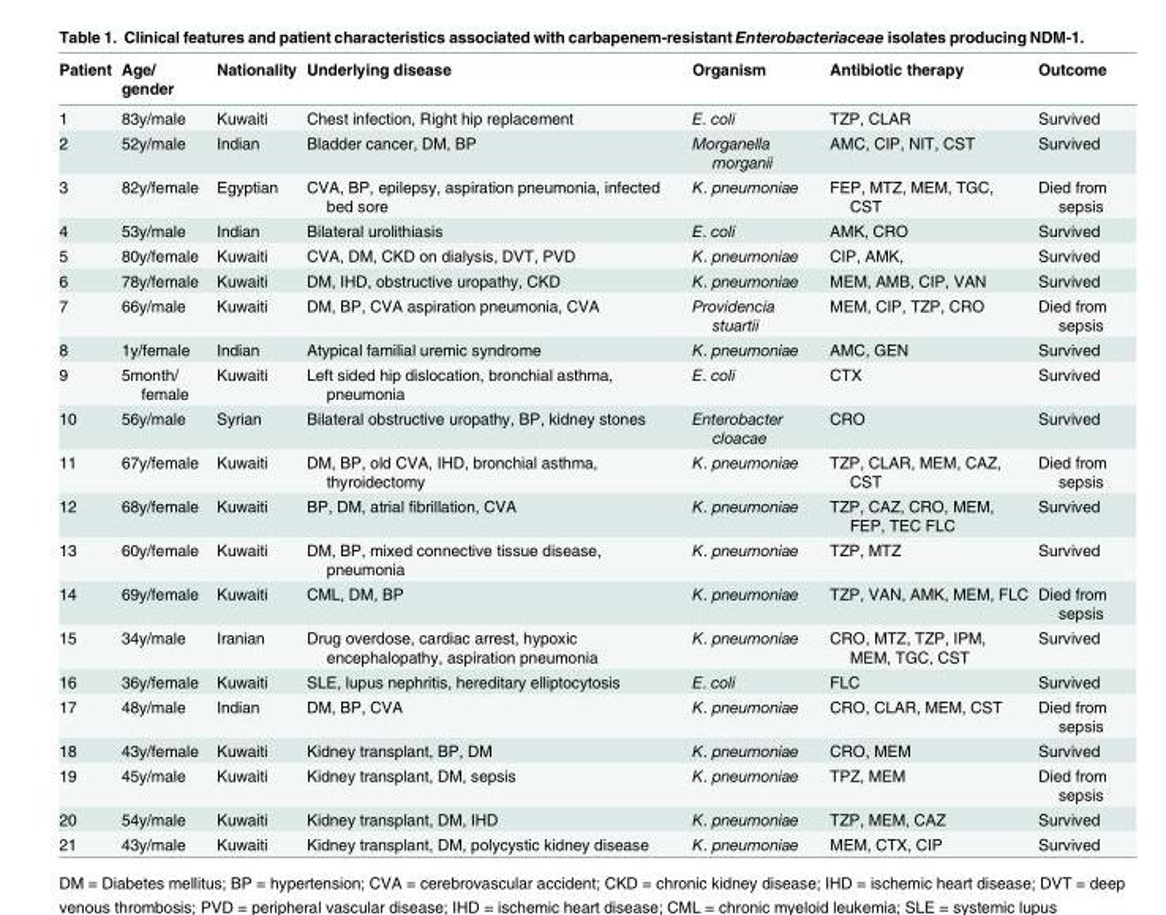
<table><thead><tr><td>Patient</td><td>Age/ gender</td><td>Nationality</td><td>Underlying disease</td><td>Organism</td><td>Antibiotic therapy</td><td>Outcome</td></tr></thead><tbody><tr><td>1</td><td>83y/male</td><td>Kuwaiti</td><td>Chest infection, Right hip replacement</td><td>E. coli</td><td>TZP, CLAR</td><td>Survived</td></tr><tr><td>2</td><td>52y/male</td><td>Indian</td><td>Bladder cancer, DM, BP</td><td>Morganella morganii</td><td>AMC, CIP, NIT, CST</td><td>Survived</td></tr><tr><td>3</td><td>82y/female</td><td>Egyptian</td><td>CVA, BP, epilepsy, aspiration pneumonia, infected bed sore</td><td>K. pneumoniae</td><td>FEP, MTZ, MEM, TGC, CST</td><td>Died from sepsis</td></tr><tr><td>4</td><td>53y/male</td><td>Indian</td><td>Bilateral urolithiasis</td><td>E. coli</td><td>AMK, CRO</td><td>Survived</td></tr><tr><td>5</td><td>80y/female</td><td>Kuwaiti</td><td>CVA, DM, CKD on dialysis, DVT, PVD</td><td>K. pneumoniae</td><td>CIP, AMK,</td><td>Survived</td></tr><tr><td>6</td><td>78y/female</td><td>Kuwaiti</td><td>DM, IHD, obstructive uropathy, CKD</td><td>K. pneumoniae</td><td>MEM, AMB, CIP, VAN</td><td>Survived</td></tr><tr><td>7</td><td>66y/male</td><td>Kuwaiti</td><td>DM, BP, CVA aspiration pneumonia, CVA</td><td>Providencia stuartii</td><td>MEM, CIP, TZP, CRO</td><td>Died from sepsis</td></tr><tr><td>8</td><td>1y/female</td><td>Indian</td><td>Atypical familial uremic syndrome</td><td>K. pneumoniae</td><td>AMC, GEN</td><td>Survived</td></tr><tr><td>9</td><td>5month/ female</td><td>Kuwaiti</td><td>Left sided hip dislocation, bronchial asthma, pneumonia</td><td>E. coli</td><td>CTX</td><td>Survived</td></tr><tr><td>10</td><td>56y/male</td><td>Syrian</td><td>Bilateral obstructive uropathy, BP, kidney stones</td><td>Enterobacter cloacae</td><td>CRO</td><td>Survived</td></tr><tr><td>11</td><td>67y/female</td><td>Kuwaiti</td><td>DM, BP, old CVA, IHD, bronchial asthma, thyroidectomy</td><td>K. pneumoniae</td><td>TZP, CLAR, MEM, CAZ, CST</td><td>Died from sepsis</td></tr><tr><td>12</td><td>68y/female</td><td>Kuwaiti</td><td>BP, DM, atrial fibrillation, CVA</td><td>K. pneumoniae</td><td>TZP, CAZ, CRO, MEM, FEP, TEC FLC</td><td>Survived</td></tr><tr><td>13</td><td>60y/female</td><td>Kuwaiti</td><td>DM, BP, mixed connective tissue disease, pneumonia</td><td>K. pneumoniae</td><td>TZP, MTZ</td><td>Survived</td></tr><tr><td>14</td><td>69y/female</td><td>Kuwaiti</td><td>CML, DM, BP</td><td>K. pneumoniae</td><td>TZP, VAN, AMK, MEM, FLC</td><td>Died from sepsis</td></tr><tr><td>15</td><td>34y/male</td><td>Iranian</td><td>Drug overdose, cardiac arrest, hypoxic encephalopathy, aspiration pneumonia</td><td>K. pneumoniae</td><td>CRO, MTZ, TZP, IPM, MEM, TGC, CST</td><td>Survived</td></tr><tr><td>16</td><td>36y/female</td><td>Kuwaiti</td><td>SLE, lupus nephritis, hereditary elliptocytosis</td><td>E. coli</td><td>FLC</td><td>Survived</td></tr><tr><td>17</td><td>48y/male</td><td>Indian</td><td>DM, BP, CVA</td><td>K. pneumoniae</td><td>CRO, CLAR, MEM, CST</td><td>Died from sepsis</td></tr><tr><td>18</td><td>43y/female</td><td>Kuwaiti</td><td>Kidney transplant, BP, DM</td><td>K. pneumoniae</td><td>CRO, MEM</td><td>Survived</td></tr><tr><td>19</td><td>45y/male</td><td>Kuwaiti</td><td>Kidney transplant, DM, sepsis</td><td>K. pneumoniae</td><td>TPZ, MEM</td><td>Died from sepsis</td></tr><tr><td>20</td><td>54y/male</td><td>Kuwaiti</td><td>Kidney transplant, DM, IHD</td><td>K. pneumoniae</td><td>TZP, MEM, CAZ</td><td>Survived</td></tr><tr><td>21</td><td>43y/male</td><td>Kuwaiti</td><td>Kidney transplant, DM, polycystic kidney disease</td><td>K. pneumoniae</td><td>MEM, CTX, CIP</td><td>Survived</td></tr></tbody></table>